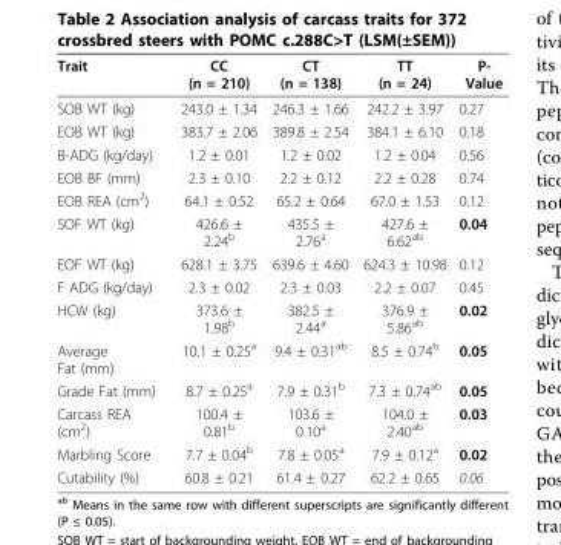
<table><thead><tr><td>Trait</td><td>CC (n = 210)</td><td>CT (n = 138)</td><td>TT (n = 24)</td><td>P- Value</td></tr></thead><tbody><tr><td>SOB WT (kg)</td><td>243.0 ± 1.34</td><td>246.3 ± 1.66</td><td>242.2 ± 3.97</td><td>0.27</td></tr><tr><td>EOB WT (kg)</td><td>383.7 ± 2.06</td><td>389.8 ± 2.54</td><td>384.1 ± 6.10</td><td>0.18</td></tr><tr><td>B-ADG (kg/day)</td><td>1.2 ± 0.01</td><td>1.2 ± 0.02</td><td>1.2 ± 0.04</td><td>0.56</td></tr><tr><td>EOB BF (mm)</td><td>2.3 ± 0.10</td><td>2.2 ± 0.12</td><td>2.2 ± 0.28</td><td>0.74</td></tr><tr><td>EOB REA (cm<sup>2</sup>)</td><td>64.1 ± 0.52</td><td>65.2 ± 0.64</td><td>67.0 ± 1.53</td><td>0.12</td></tr><tr><td>SOF WT (kg)</td><td>426.6 ± 2.24<sup>b</sup></td><td>435.5 ± 2.76<sup>a</sup></td><td>427.6 ± 6.62<sup>ab</sup></td><td>0.04</td></tr><tr><td>EOF WT (kg)</td><td>628.1 ± 3.75</td><td>639.6 ± 4.60</td><td>624.3 ± 10.98</td><td>0.12</td></tr><tr><td>F ADG (kg/day)</td><td>2.3 ± 0.02</td><td>2.3 ± 0.03</td><td>2.2 ± 0.07</td><td>0.45</td></tr><tr><td>HCW (kg)</td><td>373.6 ± 1.98<sup>b</sup></td><td>382.5 ± 2.44<sup>a</sup></td><td>376.9 ± 5.86<sup>ab</sup></td><td>0.02</td></tr><tr><td>Average Fat (mm)</td><td>10.1 ± 0.25<sup>a</sup></td><td>9.4 ± 0.31<sup>ab</sup></td><td>8.5 ± 0.74<sup>b</sup></td><td>0.05</td></tr><tr><td>Grade Fat (mm)</td><td>8.7 ± 0.25<sup>a</sup></td><td>7.9 ± 0.31<sup>b</sup></td><td>7.3 ± 0.74<sup>ab</sup></td><td>0.05</td></tr><tr><td>Carcass REA (cm<sup>2</sup>)</td><td>100.4 ± 0.81<sup>b</sup></td><td>103.6 ± 0.10<sup>a</sup></td><td>104.0 ± 2.40<sup>ab</sup></td><td>0.03</td></tr><tr><td>Marbling Score</td><td>7.7 ± 0.04<sup>b</sup></td><td>7.8 ± 0.05<sup>a</sup></td><td>7.9 ± 0.12<sup>a</sup></td><td>0.02</td></tr><tr><td>Cutability (%)</td><td>60.8 ± 0.21</td><td>61.4 ± 0.27</td><td>62.2 ± 0.65</td><td>0.06</td></tr></tbody></table>